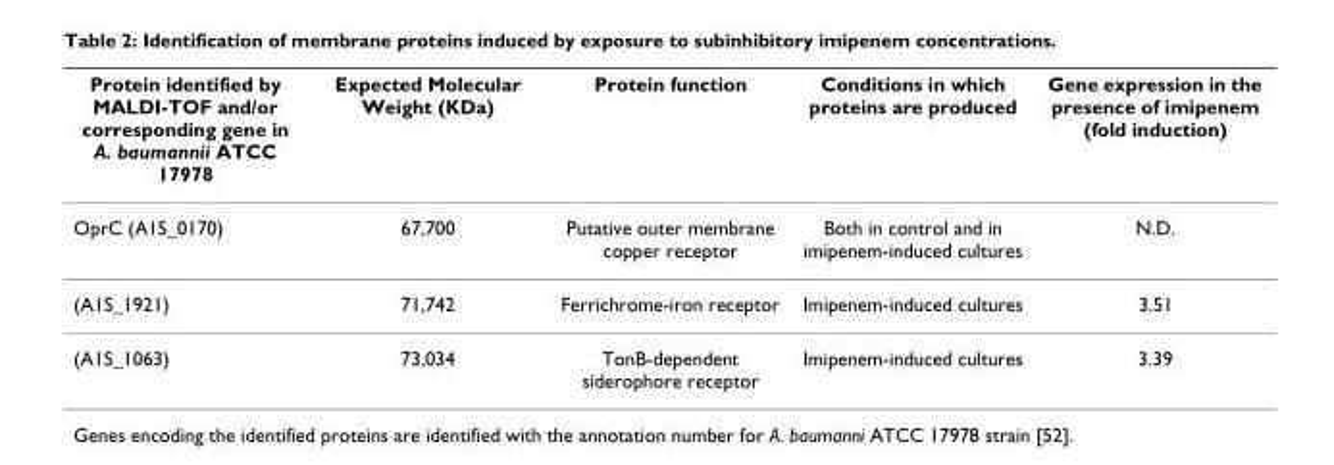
<table><thead><tr><td>Protein identified by MALDI-TOF and/or corresponding gene in A. baumannii ATCC 17978</td><td>Expected Molecular Weight (KDa)</td><td>Protein function</td><td>Conditions in which proteins are produced</td><td>Gene expression in the presence of imipenem (fold induction)</td></tr></thead><tbody><tr><td>OprC (A1S_0170)</td><td>67,700</td><td>Putative outer membrane copper receptor</td><td>Both in control and in imipenem-induced cultures</td><td>N.D.</td></tr><tr><td>(A1S_1921)</td><td>71,742</td><td>Ferrichrome-iron receptor</td><td>Imipenem-induced cultures</td><td>3.51</td></tr><tr><td>(A1S_1063)</td><td>73,034</td><td>TonB-dependent siderophore receptor</td><td>Imipenem-induced cultures</td><td>3.39</td></tr></tbody></table>